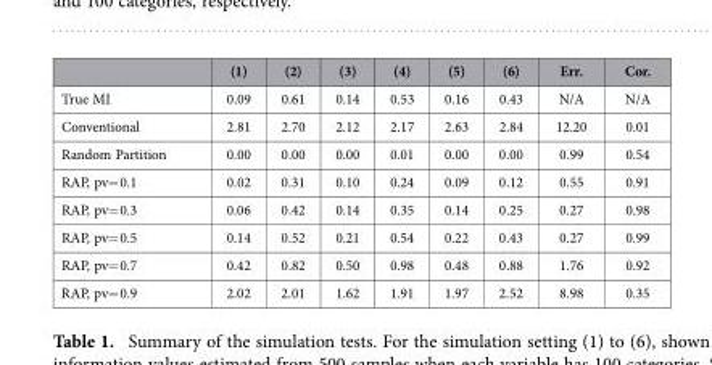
<table><thead><tr><td></td><td>(1)</td><td>(2)</td><td>(3)</td><td>(4)</td><td>(5)</td><td>(6)</td><td>Err.</td><td>Cor.</td></tr></thead><tbody><tr><td>True MI</td><td>0.09</td><td>0.61</td><td>0.14</td><td>0.53</td><td>0.16</td><td>0.43</td><td>N/A</td><td>N/A</td></tr><tr><td>Conventional</td><td>2.81</td><td>2.70</td><td>2.12</td><td>2.17</td><td>2.63</td><td>2.84</td><td>12.20</td><td>0.01</td></tr><tr><td>Random Partition</td><td>0.00</td><td>0.00</td><td>0.00</td><td>0.01</td><td>0.00</td><td>0.00</td><td>0.99</td><td>0.54</td></tr><tr><td>RAP, pv= 0.1</td><td>0.02</td><td>0.31</td><td>0.10</td><td>0.24</td><td>0.09</td><td>0.12</td><td>0.55</td><td>0.91</td></tr><tr><td>RAP, pv= 0.3</td><td>0.06</td><td>0.42</td><td>0.14</td><td>0.35</td><td>0.14</td><td>0.25</td><td>0.27</td><td>0.98</td></tr><tr><td>RAP, pv= 0.5</td><td>0.14</td><td>0.52</td><td>0.21</td><td>0.54</td><td>0.22</td><td>0.43</td><td>0.27</td><td>0.99</td></tr><tr><td>RAP, pv= 0.7</td><td>0.42</td><td>0.82</td><td>0.50</td><td>0.98</td><td>0.48</td><td>0.88</td><td>1.76</td><td>0.92</td></tr><tr><td>RAP, pv= 0.9</td><td>2.02</td><td>2.01</td><td>1.62</td><td>1.91</td><td>1.97</td><td>2.52</td><td>8.98</td><td>0.35</td></tr></tbody></table>